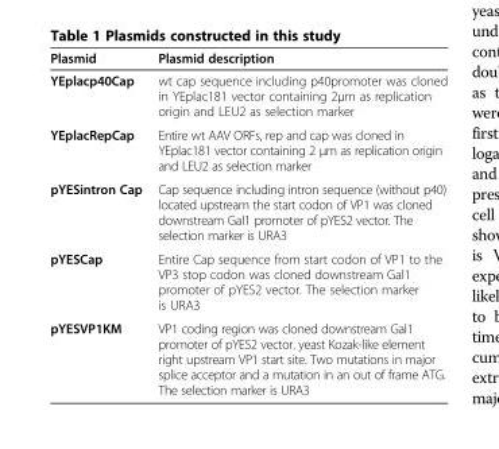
<table><thead><tr><td>Plasmid</td><td>Plasmid description</td></tr></thead><tbody><tr><td>YEplacp40Cap</td><td>wt cap sequence including p40promoter was cloned in YEplac181 vector containing 2μm as replication origin and LEU2 as selection marker</td></tr><tr><td>YEplacRepCap</td><td>Entire wt AAV ORFs, rep and cap was cloned in YEplac181 vector containing 2 μm as replication origin and LEU2 as selection marker</td></tr><tr><td>pYESintron Cap</td><td>Cap sequence including intron sequence (without p40) located upstream the start codon of VP1 was cloned downstream Gal1 promoter of pYES2 vector. The selection marker is URA3</td></tr><tr><td>pYESCap</td><td>Entire Cap sequence from start codon of VP1 to the VP3 stop codon was cloned downstream Gal1 promoter of pYES2 vector. The selection marker is URA3</td></tr><tr><td>pYESVP1KM</td><td>VP1 coding region was cloned downstream Gal1 promoter of pYES2 vector. yeast Kozak-like element right upstream VP1 start site. Two mutations in major splice acceptor and a mutation in an out of frame ATG. The selection marker is URA3</td></tr></tbody></table>